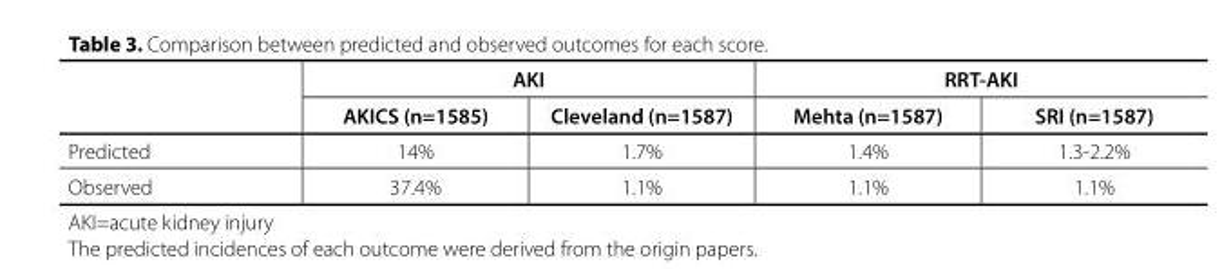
<table><thead><tr><td rowspan="2"></td><td colspan="2">AKI</td><td colspan="2">RRT-AKI</td></tr><tr><td>AKICS (n=1585)</td><td>Cleveland (n=1587)</td><td>Mehta (n=1587)</td><td>SRI (n=1587)</td></tr></thead><tbody><tr><td>Predicted</td><td>14%</td><td>1.7%</td><td>1.4%</td><td>1.3-2.2%</td></tr><tr><td>Observed</td><td>37.4%</td><td>1.1%</td><td>1.1%</td><td>1.1%</td></tr></tbody></table>